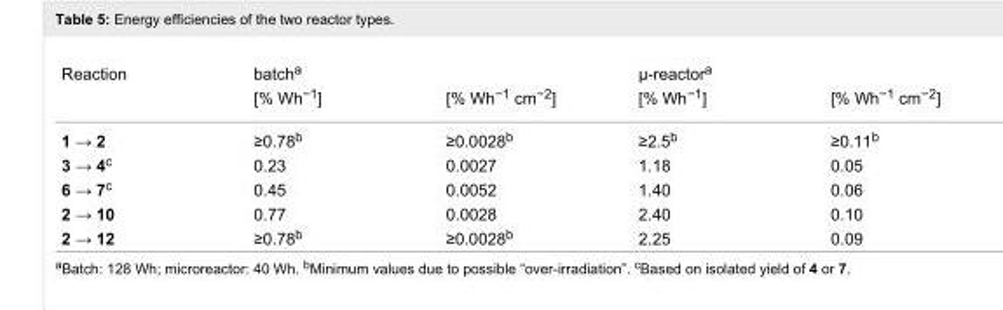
<table><tbody><tr><td rowspan="2">Reaction</td><td colspan="2">batch<sup>a</sup></td><td colspan="2">μ-reactor<sup>a</sup></td></tr><tr><td>[% Wh<sup>−1</sup>]</td><td>[% Wh<sup>−1</sup> cm<sup>−2</sup>]</td><td>[% Wh<sup>−1</sup>]</td><td>[% Wh<sup>−1</sup> cm<sup>−2</sup>]</td></tr><tr><td>1 → 2</td><td>≥0.78<sup>b</sup></td><td>≥0.0028<sup>b</sup></td><td>≥2.5<sup>b</sup></td><td>≥0.11<sup>b</sup></td></tr><tr><td>3 → 4<sup>c</sup></td><td>0.23</td><td>0.0027</td><td>1.18</td><td>0.05</td></tr><tr><td>6 → 7<sup>c</sup></td><td>0.45</td><td>0.0052</td><td>1.40</td><td>0.06</td></tr><tr><td>2 → 10</td><td>0.77</td><td>0.0028</td><td>2.40</td><td>0.10</td></tr><tr><td>2 → 12</td><td>≥0.78<sup>b</sup></td><td>≥0.0028<sup>b</sup></td><td>2.25</td><td>0.09</td></tr></tbody></table>